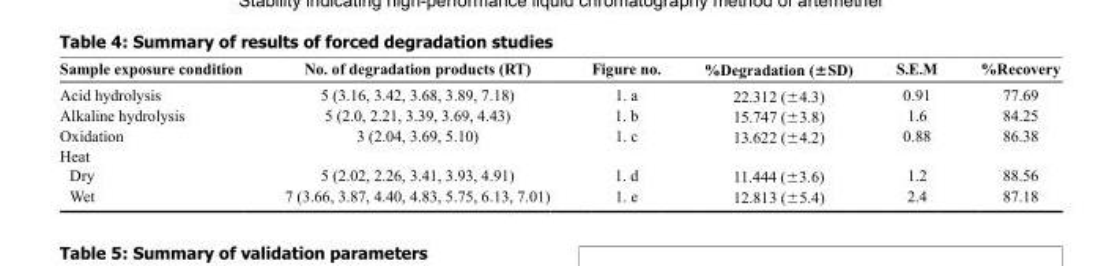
<table><thead><tr><td>Sample exposure condition</td><td>No. of degradation products (RT)</td><td>Figure no.</td><td>%Degradation (±SD)</td><td>S.E.M</td><td>%Recovery</td></tr></thead><tbody><tr><td>Acid hydrolysis</td><td>5 (3.16, 3.42, 3.68, 3.89, 7.18)</td><td>1. a</td><td>22.312 (±4.3)</td><td>0.91</td><td>77.69</td></tr><tr><td>Alkaline hydrolysis</td><td>5 (2.0, 2.21, 3.39, 3.69, 4.43)</td><td>1. b</td><td>15.747 (±3.8)</td><td>1.6</td><td>84.25</td></tr><tr><td>Oxidation</td><td>3 (2.04, 3.69, 5.10)</td><td>1. c</td><td>13.622 (±4.2)</td><td>0.88</td><td>86.38</td></tr><tr><td colspan="6">Heat</td></tr><tr><td>Dry</td><td>5 (2.02, 2.26, 3.41, 3.93, 4.91)</td><td>1. d</td><td>11.444 (±3.6)</td><td>1.2</td><td>88.56</td></tr><tr><td>Wet</td><td>7 (3.66, 3.87, 4.40, 4.83, 5.75, 6.13, 7.01)</td><td>1. e</td><td>12.813 (±5.4)</td><td>2.4</td><td>87.18</td></tr></tbody></table>